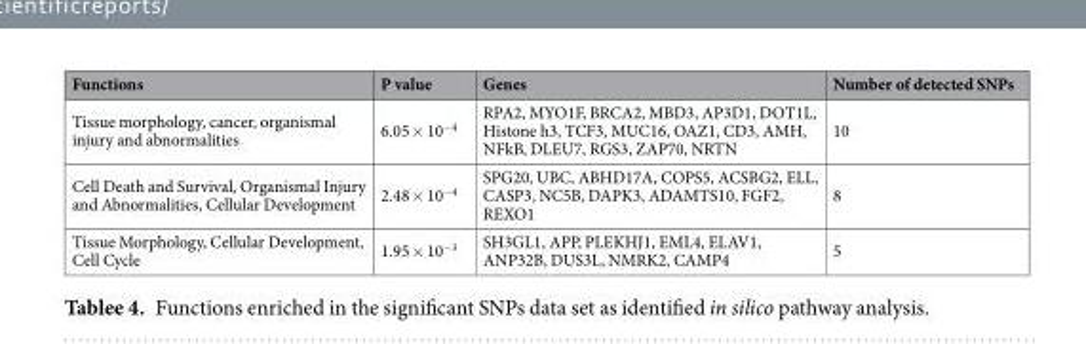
<table><thead><tr><td>Functions</td><td>P value</td><td>Genes</td><td>Number of detected SNPs</td></tr></thead><tbody><tr><td>Tissue morphology, cancer, organismal injury and abnormalities</td><td>6.05 × 10<sup>−4</sup></td><td>RPA2, MYO1F, BRCA2, MBD3, AP3D1, DOT1L, Histone h3, TCF3, MUC16, OAZ1, CD3, AMH, NFkB, DLEU7, RGS3, ZAP70, NRTN</td><td>10</td></tr><tr><td>Cell Death and Survival, Organismal Injury and Abnormalities, Cellular Development</td><td>2.48 × 10<sup>−4</sup></td><td>SPG20, UBC, ABHD17A, COPS5, ACSBG2, ELL, CASP3, NC5B, DAPK3, ADAMTS10, FGF2, REXO1</td><td>8</td></tr><tr><td>Tissue Morphology, Cellular Development, Cell Cycle</td><td>1.95 × 10<sup>−3</sup></td><td>SH3GL1, APP, PLEKHJ1, EML4, ELAV1, ANP32B, DUS3L, NMRK2, CAMP4</td><td>5</td></tr></tbody></table>